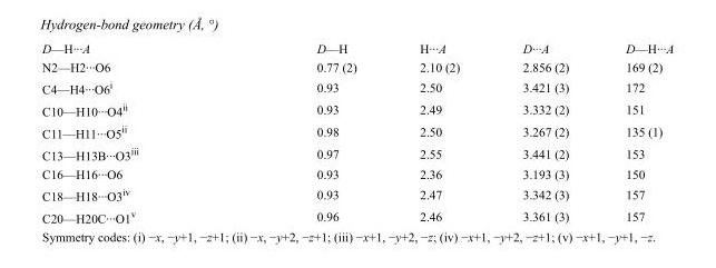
<table><tbody><tr><td>D—H···A</td><td>D—H</td><td>H···A</td><td>D···A</td><td>D—H···A</td></tr><tr><td>N2—H2···O6</td><td>0.77 (2)</td><td>2.10 (2)</td><td>2.856 (2)</td><td>169 (2)</td></tr><tr><td>C4—H4···O6<sup>i</sup></td><td>0.93</td><td>2.50</td><td>3.421 (3)</td><td>172</td></tr><tr><td>C10—H10···O4<sup>ii</sup></td><td>0.93</td><td>2.49</td><td>3.332 (2)</td><td>151</td></tr><tr><td>C11—H11···O5<sup>ii</sup></td><td>0.98</td><td>2.50</td><td>3.267 (2)</td><td>135 (1)</td></tr><tr><td>C13—H13B···O3<sup>iii</sup></td><td>0.97</td><td>2.55</td><td>3.441 (2)</td><td>153</td></tr><tr><td>C16—H16···O6</td><td>0.93</td><td>2.36</td><td>3.193 (3)</td><td>150</td></tr><tr><td>C18—H18···O3<sup>iv</sup></td><td>0.93</td><td>2.47</td><td>3.342 (3)</td><td>157</td></tr><tr><td>C20—H20C···O1<sup>v</sup></td><td>0.96</td><td>2.46</td><td>3.361 (3)</td><td>157</td></tr></tbody></table>